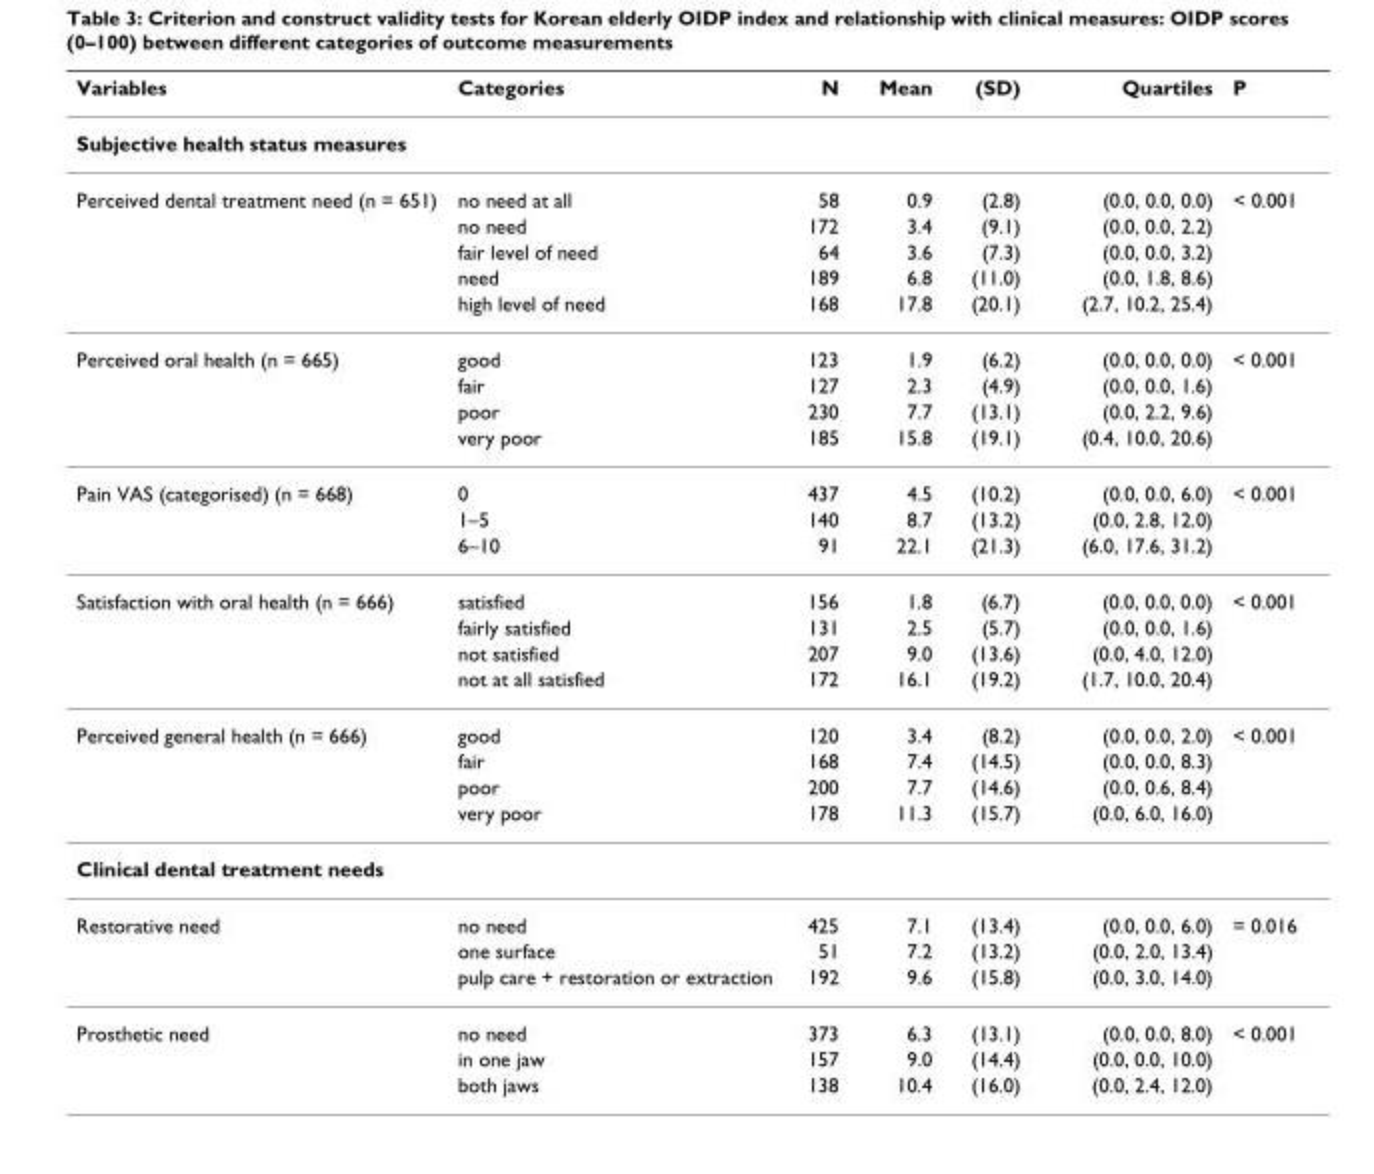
<table><thead><tr><td>Variables</td><td>Categories</td><td>N</td><td>Mean</td><td>(SD)</td><td>Quartiles</td><td>P</td></tr></thead><tbody><tr><td colspan="7">Subjective health status measures</td></tr><tr><td rowspan="5">Perceived dental treatment need (n = 651)</td><td>no need at all</td><td>58</td><td>0.9</td><td>(2.8)</td><td>(0.0, 0.0, 0.0)</td><td>&lt; 0.001</td></tr><tr><td>no need</td><td>172</td><td>3.4</td><td>(9.1)</td><td>(0.0, 0.0, 2.2)</td><td></td></tr><tr><td>fair level of need</td><td>64</td><td>3.6</td><td>(7.3)</td><td>(0.0, 0.0, 3.2)</td><td></td></tr><tr><td>need</td><td>189</td><td>6.8</td><td>(11.0)</td><td>(0.0, 1.8, 8.6)</td><td></td></tr><tr><td>high level of need</td><td>168</td><td>17.8</td><td>(20.1)</td><td>(2.7, 10.2, 25.4)</td><td></td></tr><tr><td rowspan="4">Perceived oral health (n = 665)</td><td>good</td><td>123</td><td>1.9</td><td>(6.2)</td><td>(0.0, 0.0, 0.0)</td><td>&lt; 0.001</td></tr><tr><td>fair</td><td>127</td><td>2.3</td><td>(4.9)</td><td>(0.0, 0.0, 1.6)</td><td></td></tr><tr><td>poor</td><td>230</td><td>7.7</td><td>(13.1)</td><td>(0.0, 2.2, 9.6)</td><td></td></tr><tr><td>very poor</td><td>185</td><td>15.8</td><td>(19.1)</td><td>(0.4, 10.0, 20.6)</td><td></td></tr><tr><td rowspan="3">Pain VAS (categorised) (n = 668)</td><td>0</td><td>437</td><td>4.5</td><td>(10.2)</td><td>(0.0, 0.0, 6.0)</td><td>&lt; 0.001</td></tr><tr><td>1–5</td><td>140</td><td>8.7</td><td>(13.2)</td><td>(0.0, 2.8, 12.0)</td><td></td></tr><tr><td>6–10</td><td>91</td><td>22.1</td><td>(21.3)</td><td>(6.0, 17.6, 31.2)</td><td></td></tr><tr><td rowspan="4">Satisfaction with oral health (n = 666)</td><td>satisfied</td><td>156</td><td>1.8</td><td>(6.7)</td><td>(0.0, 0.0, 0.0)</td><td>&lt; 0.001</td></tr><tr><td>fairly satisfied</td><td>131</td><td>2.5</td><td>(5.7)</td><td>(0.0, 0.0, 1.6)</td><td></td></tr><tr><td>not satisfied</td><td>207</td><td>9.0</td><td>(13.6)</td><td>(0.0, 4.0, 12.0)</td><td></td></tr><tr><td>not at all satisfied</td><td>172</td><td>16.1</td><td>(19.2)</td><td>(1.7, 10.0, 20.4)</td><td></td></tr><tr><td rowspan="4">Perceived general health (n = 666)</td><td>good</td><td>120</td><td>3.4</td><td>(8.2)</td><td>(0.0, 0.0, 2.0)</td><td>&lt; 0.001</td></tr><tr><td>fair</td><td>168</td><td>7.4</td><td>(14.5)</td><td>(0.0, 0.0, 8.3)</td><td></td></tr><tr><td>poor</td><td>200</td><td>7.7</td><td>(14.6)</td><td>(0.0, 0.6, 8.4)</td><td></td></tr><tr><td>very poor</td><td>178</td><td>11.3</td><td>(15.7)</td><td>(0.0, 6.0, 16.0)</td><td></td></tr><tr><td colspan="7">Clinical dental treatment needs</td></tr><tr><td rowspan="3">Restorative need</td><td>no need</td><td>425</td><td>7.1</td><td>(13.4)</td><td>(0.0, 0.0, 6.0)</td><td>= 0.016</td></tr><tr><td>one surface</td><td>51</td><td>7.2</td><td>(13.2)</td><td>(0.0, 2.0, 13.4)</td><td></td></tr><tr><td>pulp care + restoration or extraction</td><td>192</td><td>9.6</td><td>(15.8)</td><td>(0.0, 3.0, 14.0)</td><td></td></tr><tr><td rowspan="3">Prosthetic need</td><td>no need</td><td>373</td><td>6.3</td><td>(13.1)</td><td>(0.0, 0.0, 8.0)</td><td>&lt; 0.001</td></tr><tr><td>in one jaw</td><td>157</td><td>9.0</td><td>(14.4)</td><td>(0.0, 0.0, 10.0)</td><td></td></tr><tr><td>both jaws</td><td>138</td><td>10.4</td><td>(16.0)</td><td>(0.0, 2.4, 12.0)</td><td></td></tr></tbody></table>